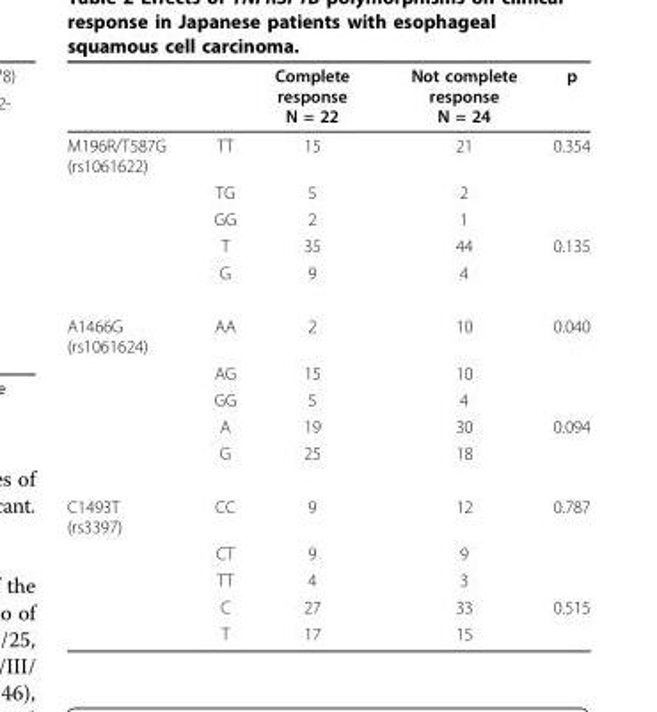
<table><thead><tr><td></td><td></td><td>Complete response N = 22</td><td>Not complete response N = 24</td><td>p</td></tr></thead><tbody><tr><td rowspan="5">M196R/T587G (rs1061622)</td><td>TT</td><td>15</td><td>21</td><td>0.354</td></tr><tr><td>TG</td><td>5</td><td>2</td><td></td></tr><tr><td>GG</td><td>2</td><td>1</td><td></td></tr><tr><td>T</td><td>35</td><td>44</td><td>0.135</td></tr><tr><td>G</td><td>9</td><td>4</td><td></td></tr><tr><td rowspan="5">A1466G (rs1061624)</td><td>AA</td><td>2</td><td>10</td><td>0.040</td></tr><tr><td>AG</td><td>15</td><td>10</td><td></td></tr><tr><td>GG</td><td>5</td><td>4</td><td></td></tr><tr><td>A</td><td>19</td><td>30</td><td>0.094</td></tr><tr><td>G</td><td>25</td><td>18</td><td></td></tr><tr><td rowspan="5">C1493T (rs3397)</td><td>CC</td><td>9</td><td>12</td><td>0.787</td></tr><tr><td>CT</td><td>9</td><td>9</td><td></td></tr><tr><td>TT</td><td>4</td><td>3</td><td></td></tr><tr><td>C</td><td>27</td><td>33</td><td>0.515</td></tr><tr><td>T</td><td>17</td><td>15</td><td></td></tr></tbody></table>